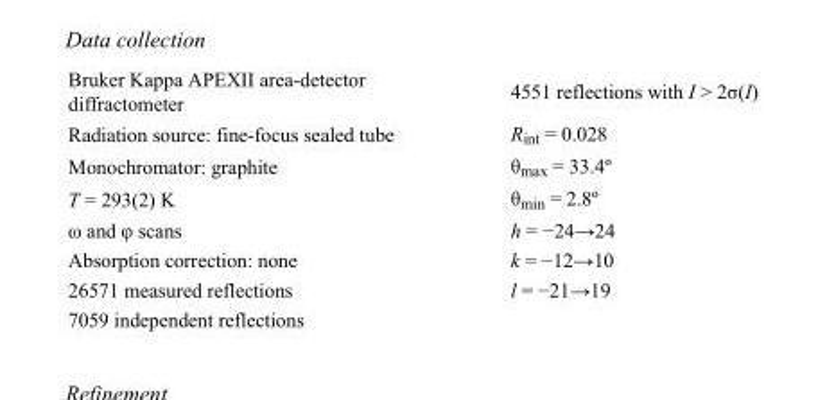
<table><tbody><tr><td>Bruker Kappa APEXII area-detector diffractometer</td><td>4551 reflections with I &gt; 2σ(I)</td></tr><tr><td>Radiation source: fine-focus sealed tube</td><td>R<sub>int</sub> = 0.028</td></tr><tr><td>Monochromator: graphite</td><td>θ<sub>max</sub> = 33.4º</td></tr><tr><td>T = 293(2) K</td><td>θ<sub>min</sub> = 2.8º</td></tr><tr><td>ω and φ scans</td><td>h = −24→24</td></tr><tr><td>Absorption correction: none</td><td>k = −12→10</td></tr><tr><td>26571 measured reflections</td><td>l = −21→19</td></tr><tr><td>7059 independent reflections</td><td></td></tr></tbody></table>